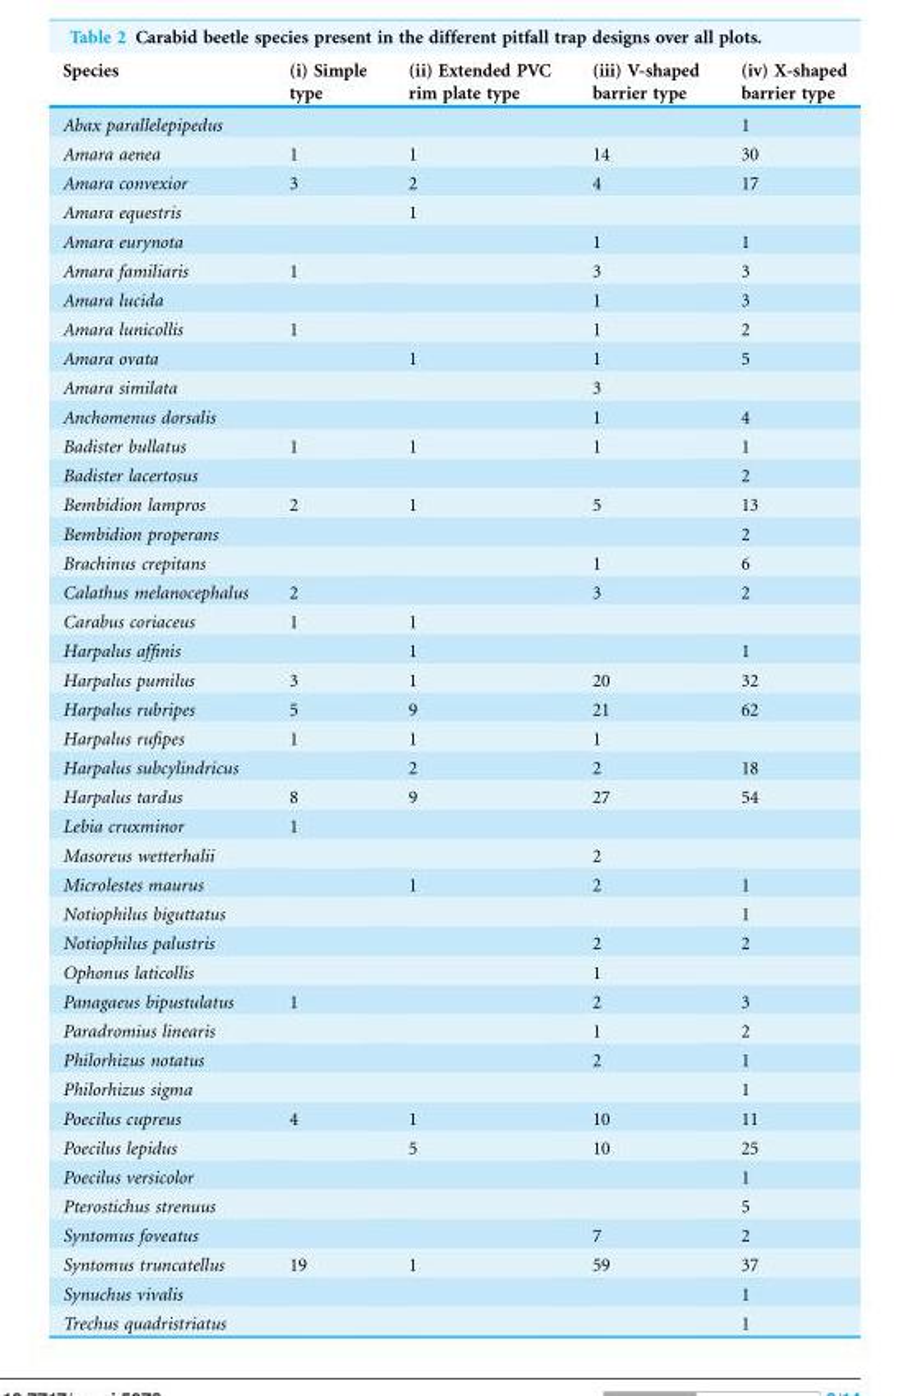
<table><thead><tr><td>Species</td><td>(i) Simple type</td><td>(ii) Extended PVC rim plate type</td><td>(iii) V-shaped barrier type</td><td>(iv) X-shaped barrier type</td></tr></thead><tbody><tr><td>Abax parallelepipedus</td><td></td><td></td><td></td><td>1</td></tr><tr><td>Amara aenea</td><td>1</td><td>1</td><td>14</td><td>30</td></tr><tr><td>Amara convexior</td><td>3</td><td>2</td><td>4</td><td>17</td></tr><tr><td>Amara equestris</td><td></td><td>1</td><td></td><td></td></tr><tr><td>Amara eurynota</td><td></td><td></td><td>1</td><td>1</td></tr><tr><td>Amara familiaris</td><td>1</td><td></td><td>3</td><td>3</td></tr><tr><td>Amara lucida</td><td></td><td></td><td>1</td><td>3</td></tr><tr><td>Amara lunicollis</td><td>1</td><td></td><td>1</td><td>2</td></tr><tr><td>Amara ovata</td><td></td><td>1</td><td>1</td><td>5</td></tr><tr><td>Amara similata</td><td></td><td></td><td>3</td><td></td></tr><tr><td>Anchomenus dorsalis</td><td></td><td></td><td>1</td><td>4</td></tr><tr><td>Badister bullatus</td><td>1</td><td>1</td><td>1</td><td>1</td></tr><tr><td>Badister lacertosus</td><td></td><td></td><td></td><td>2</td></tr><tr><td>Bembidion lampros</td><td>2</td><td>1</td><td>5</td><td>13</td></tr><tr><td>Bembidion properans</td><td></td><td></td><td></td><td>2</td></tr><tr><td>Brachinus crepitans</td><td></td><td></td><td>1</td><td>6</td></tr><tr><td>Calathus melanocephalus</td><td>2</td><td></td><td>3</td><td>2</td></tr><tr><td>Carabus coriaceus</td><td>1</td><td>1</td><td></td><td></td></tr><tr><td>Harpalus affinis</td><td></td><td>1</td><td></td><td>1</td></tr><tr><td>Harpalus pumilus</td><td>3</td><td>1</td><td>20</td><td>32</td></tr><tr><td>Harpalus rubripes</td><td>5</td><td>9</td><td>21</td><td>62</td></tr><tr><td>Harpalus rufipes</td><td>1</td><td>1</td><td>1</td><td></td></tr><tr><td>Harpalus subcylindricus</td><td></td><td>2</td><td>2</td><td>18</td></tr><tr><td>Harpalus tardus</td><td>8</td><td>9</td><td>27</td><td>54</td></tr><tr><td>Lebia cruxminor</td><td>1</td><td></td><td></td><td></td></tr><tr><td>Masoreus wetterhalii</td><td></td><td></td><td>2</td><td></td></tr><tr><td>Microlestes maurus</td><td></td><td>1</td><td>2</td><td>1</td></tr><tr><td>Notiophilus biguttatus</td><td></td><td></td><td></td><td>1</td></tr><tr><td>Notiophilus palustris</td><td></td><td></td><td>2</td><td>2</td></tr><tr><td>Ophonus laticollis</td><td></td><td></td><td>1</td><td></td></tr><tr><td>Panagaeus bipustulatus</td><td>1</td><td></td><td>2</td><td>3</td></tr><tr><td>Paradromius linearis</td><td></td><td></td><td>1</td><td>2</td></tr><tr><td>Philorhizus notatus</td><td></td><td></td><td>2</td><td>1</td></tr><tr><td>Philorhizus sigma</td><td></td><td></td><td></td><td>1</td></tr><tr><td>Poecilus cupreus</td><td>4</td><td>1</td><td>10</td><td>11</td></tr><tr><td>Poecilus lepidus</td><td></td><td>5</td><td>10</td><td>25</td></tr><tr><td>Poecilus versicolor</td><td></td><td></td><td></td><td>1</td></tr><tr><td>Pterostichus strenuus</td><td></td><td></td><td></td><td>5</td></tr><tr><td>Syntomus foveatus</td><td></td><td></td><td>7</td><td>2</td></tr><tr><td>Syntomus truncatellus</td><td>19</td><td>1</td><td>59</td><td>37</td></tr><tr><td>Synuchus vivalis</td><td></td><td></td><td></td><td>1</td></tr><tr><td>Trechus quadristriatus</td><td></td><td></td><td></td><td>1</td></tr></tbody></table>